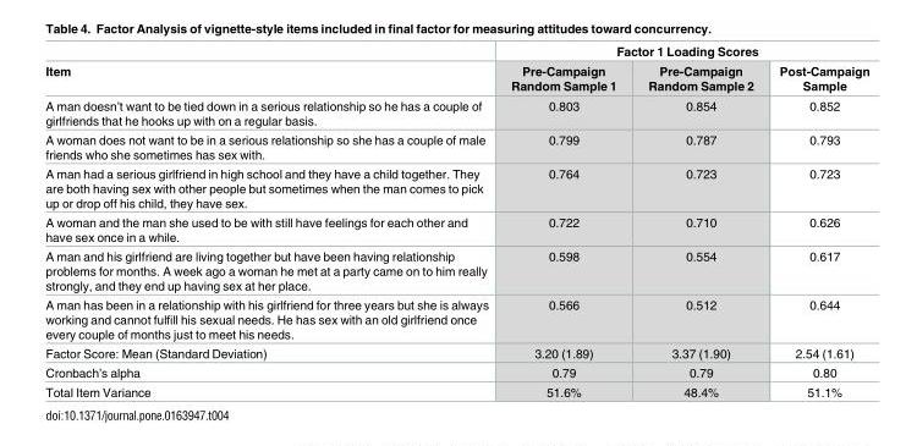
<table><thead><tr><td rowspan="2">Item</td><td colspan="3">Factor 1 Loading Scores</td></tr><tr><td>Pre-Campaign Random Sample 1</td><td>Pre-Campaign Random Sample 2</td><td>Post-Campaign Sample</td></tr></thead><tbody><tr><td>A man doesn’t want to be tied down in a serious relationship so he has a couple of girlfriends that he hooks up with on a regular basis.</td><td>0.803</td><td>0.854</td><td>0.852</td></tr><tr><td>A woman does not want to be in a serious relationship so she has a couple of male friends who she sometimes has sex with.</td><td>0.799</td><td>0.787</td><td>0.793</td></tr><tr><td>A man had a serious girlfriend in high school and they have a child together. They are both having sex with other people but sometimes when the man comes to pick up or drop off his child, they have sex.</td><td>0.764</td><td>0.723</td><td>0.723</td></tr><tr><td>A woman and the man she used to be with still have feelings for each other and have sex once in a while.</td><td>0.722</td><td>0.710</td><td>0.626</td></tr><tr><td>A man and his girlfriend are living together but have been having relationship problems for months. A week ago a woman he met at a party came on to him really strongly, and they end up having sex at her place.</td><td>0.598</td><td>0.554</td><td>0.617</td></tr><tr><td>A man has been in a relationship with his girlfriend for three years but she is always working and cannot fulfill his sexual needs. He has sex with an old girlfriend once every couple of months just to meet his needs.</td><td>0.566</td><td>0.512</td><td>0.644</td></tr><tr><td>Factor Score: Mean (Standard Deviation)</td><td>3.20 (1.89)</td><td>3.37 (1.90)</td><td>2.54 (1.61)</td></tr><tr><td>Cronbach’s alpha</td><td>0.79</td><td>0.79</td><td>0.80</td></tr><tr><td>Total Item Variance</td><td>51.6%</td><td>48.4%</td><td>51.1%</td></tr></tbody></table>